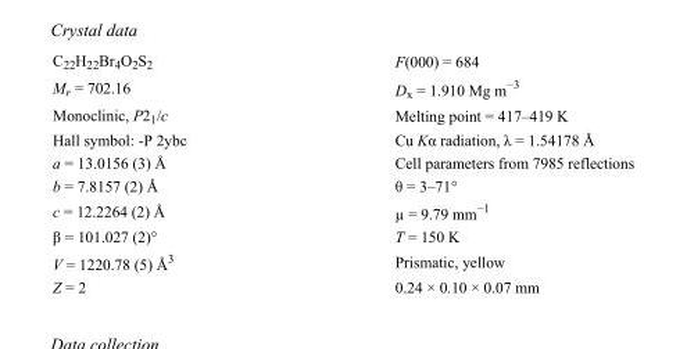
<table><tbody><tr><td>C<sub>22</sub>H<sub>22</sub>Br<sub>4</sub>O<sub>2</sub>S<sub>2</sub></td><td>F(000) = 684</td></tr><tr><td>M<sub>r</sub> = 702.16</td><td>D<sub>x</sub> = 1.910 Mg m<sup>−3</sup></td></tr><tr><td>Monoclinic, P2<sub>1</sub>/c</td><td>Melting point = 417–419 K</td></tr><tr><td>Hall symbol: -P 2ybc</td><td>Cu Kα radiation, λ = 1.54178 Å</td></tr><tr><td>a = 13.0156 (3) Å</td><td>Cell parameters from 7985 reflections</td></tr><tr><td>b = 7.8157 (2) Å</td><td>θ = 3–71°</td></tr><tr><td>c = 12.2264 (2) Å</td><td>µ = 9.79 mm<sup>−1</sup></td></tr><tr><td>β = 101.027 (2)°</td><td>T = 150 K</td></tr><tr><td>V = 1220.78 (5) Å<sup>3</sup></td><td>Prismatic, yellow</td></tr><tr><td>Z = 2</td><td>0.24 × 0.10 × 0.07 mm</td></tr></tbody></table>